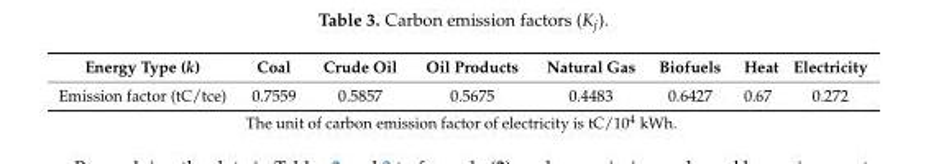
<table><thead><tr><td>Energy Type (k)</td><td>Coal</td><td>Crude Oil</td><td>Oil Products</td><td>Natural Gas</td><td>Biofuels</td><td>Heat</td><td>Electricity</td></tr></thead><tbody><tr><td>Emission factor (tC/tce)</td><td>0.7559</td><td>0.5857</td><td>0.5675</td><td>0.4483</td><td>0.6427</td><td>0.67</td><td>0.272</td></tr></tbody></table>